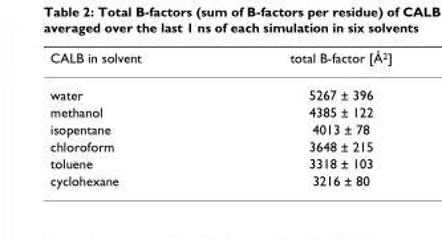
<table><thead><tr><td>CALB in solvent</td><td>total B-factor [Å<sup>2</sup>]</td></tr></thead><tbody><tr><td>water</td><td>5267 ± 396</td></tr><tr><td>methanol</td><td>4385 ± 122</td></tr><tr><td>isopentane</td><td>4013 ± 78</td></tr><tr><td>chloroform</td><td>3648 ± 215</td></tr><tr><td>toluene</td><td>3318 ± 103</td></tr><tr><td>cyclohexane</td><td>3216 ± 80</td></tr></tbody></table>